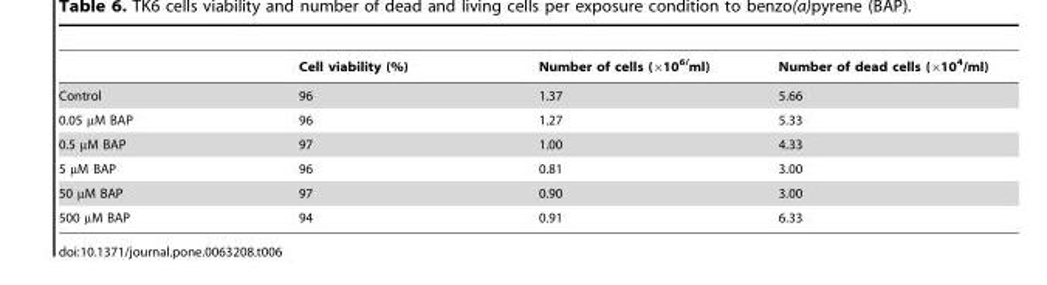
<table><thead><tr><td></td><td>Cell viability (%)</td><td>Number of cells (×10<sup>6/</sup>ml)</td><td>Number of dead cells (×10<sup>4</sup>/ml)</td></tr></thead><tbody><tr><td>Control</td><td>96</td><td>1.37</td><td>5.66</td></tr><tr><td>0.05 µM BAP</td><td>96</td><td>1.27</td><td>5.33</td></tr><tr><td>0.5 µM BAP</td><td>97</td><td>1.00</td><td>4.33</td></tr><tr><td>5 µM BAP</td><td>96</td><td>0.81</td><td>3.00</td></tr><tr><td>50 µM BAP</td><td>97</td><td>0.90</td><td>3.00</td></tr><tr><td>500 µM BAP</td><td>94</td><td>0.91</td><td>6.33</td></tr></tbody></table>